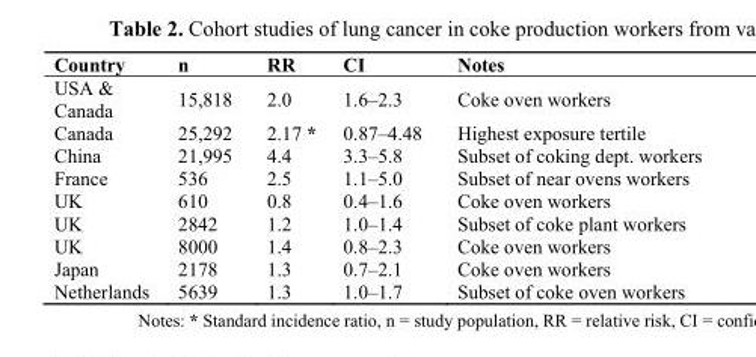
<table><thead><tr><td>Country</td><td>n</td><td>RR</td><td>CI</td><td>Notes</td></tr></thead><tbody><tr><td>USA &amp; Canada</td><td>15,818</td><td>2.0</td><td>1.6–2.3</td><td>Coke oven workers</td></tr><tr><td>Canada</td><td>25,292</td><td>2.17 *</td><td>0.87–4.48</td><td>Highest exposure tertile</td></tr><tr><td>China</td><td>21,995</td><td>4.4</td><td>3.3–5.8</td><td>Subset of coking dept. workers</td></tr><tr><td>France</td><td>536</td><td>2.5</td><td>1.1–5.0</td><td>Subset of near ovens workers</td></tr><tr><td>UK</td><td>610</td><td>0.8</td><td>0.4–1.6</td><td>Coke oven workers</td></tr><tr><td>UK</td><td>2842</td><td>1.2</td><td>1.0–1.4</td><td>Subset of coke plant workers</td></tr><tr><td>UK</td><td>8000</td><td>1.4</td><td>0.8–2.3</td><td>Coke oven workers</td></tr><tr><td>Japan</td><td>2178</td><td>1.3</td><td>0.7–2.1</td><td>Coke oven workers</td></tr><tr><td>Netherlands</td><td>5639</td><td>1.3</td><td>1.0–1.7</td><td>Subset of coke oven workers</td></tr></tbody></table>